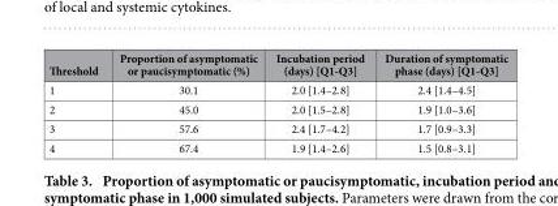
<table><thead><tr><td>Threshold</td><td>Proportion of asymptomatic or paucisymptomatic (%)</td><td>Incubation period (days) [Q1-Q3]</td><td>Duration of symptomatic phase (days) [Q1-Q3]</td></tr></thead><tbody><tr><td>1</td><td>30.1</td><td>2.0 [1.4–2.8]</td><td>2.4 [1.4–4.5]</td></tr><tr><td>2</td><td>45.0</td><td>2.0 [1.5–2.8]</td><td>1.9 [1.0–3.6]</td></tr><tr><td>3</td><td>57.6</td><td>2.4 [1.7–4.2]</td><td>1.7 [0.9–3.3]</td></tr><tr><td>4</td><td>67.4</td><td>1.9 [1.4–2.6]</td><td>1.5 [0.8–3.1]</td></tr></tbody></table>